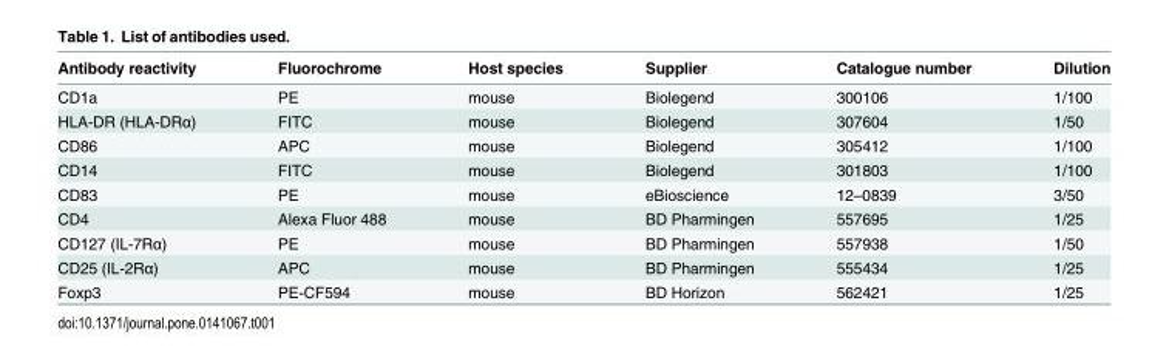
<table><thead><tr><td>Antibody reactivity</td><td>Fluorochrome</td><td>Host species</td><td>Supplier</td><td>Catalogue number</td><td>Dilution</td></tr></thead><tbody><tr><td>CD1a</td><td>PE</td><td>mouse</td><td>Biolegend</td><td>300106</td><td>1/100</td></tr><tr><td>HLA-DR (HLA-DRα)</td><td>FITC</td><td>mouse</td><td>Biolegend</td><td>307604</td><td>1/50</td></tr><tr><td>CD86</td><td>APC</td><td>mouse</td><td>Biolegend</td><td>305412</td><td>1/100</td></tr><tr><td>CD14</td><td>FITC</td><td>mouse</td><td>Biolegend</td><td>301803</td><td>1/100</td></tr><tr><td>CD83</td><td>PE</td><td>mouse</td><td>eBioscience</td><td>12–0839</td><td>3/50</td></tr><tr><td>CD4</td><td>Alexa Fluor 488</td><td>mouse</td><td>BD Pharmingen</td><td>557695</td><td>1/25</td></tr><tr><td>CD127 (IL-7Rα)</td><td>PE</td><td>mouse</td><td>BD Pharmingen</td><td>557938</td><td>1/50</td></tr><tr><td>CD25 (IL-2Rα)</td><td>APC</td><td>mouse</td><td>BD Pharmingen</td><td>555434</td><td>1/25</td></tr><tr><td>Foxp3</td><td>PE-CF594</td><td>mouse</td><td>BD Horizon</td><td>562421</td><td>1/25</td></tr></tbody></table>